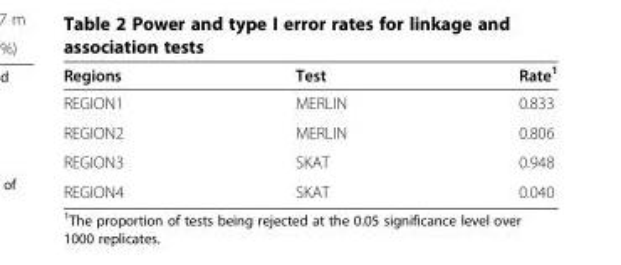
<table><thead><tr><td>Regions</td><td>Test</td><td>Rate<sup>1</sup></td></tr></thead><tbody><tr><td>REGION1</td><td>MERLIN</td><td>0.833</td></tr><tr><td>REGION2</td><td>MERLIN</td><td>0.806</td></tr><tr><td>REGION3</td><td>SKAT</td><td>0.948</td></tr><tr><td>REGION4</td><td>SKAT</td><td>0.040</td></tr></tbody></table>